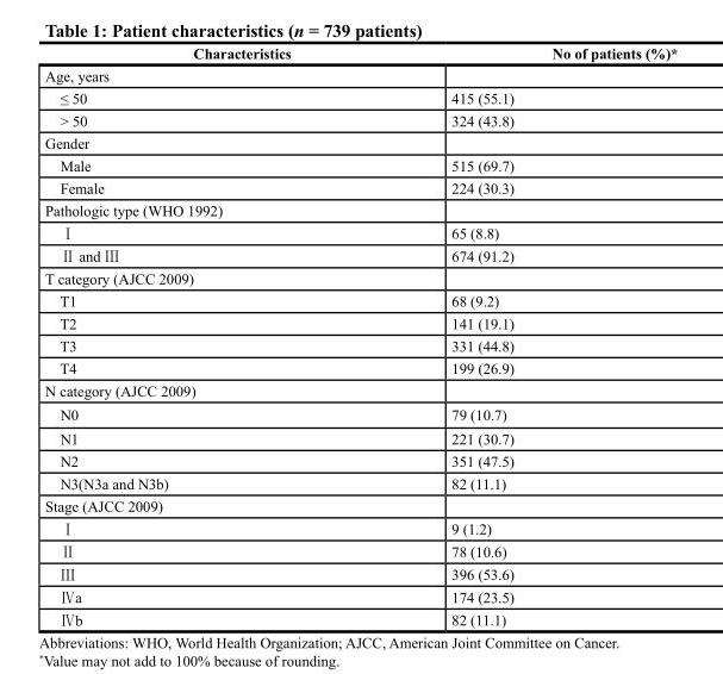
<table><thead><tr><td>Characteristics</td><td>No of patients (%)*</td></tr></thead><tbody><tr><td colspan="2">Age, years</td></tr><tr><td>≤ 50</td><td>415 (55.1)</td></tr><tr><td>&gt; 50</td><td>324 (43.8)</td></tr><tr><td colspan="2">Gender</td></tr><tr><td>Male</td><td>515 (69.7)</td></tr><tr><td>Female</td><td>224 (30.3)</td></tr><tr><td colspan="2">Pathologic type (WHO 1992)</td></tr><tr><td>Ⅰ</td><td>65 (8.8)</td></tr><tr><td>Ⅱ and Ⅲ</td><td>674 (91.2)</td></tr><tr><td colspan="2">T category (AJCC 2009)</td></tr><tr><td>T1</td><td>68 (9.2)</td></tr><tr><td>T2</td><td>141 (19.1)</td></tr><tr><td>T3</td><td>331 (44.8)</td></tr><tr><td>T4</td><td>199 (26.9)</td></tr><tr><td colspan="2">N category (AJCC 2009)</td></tr><tr><td>N0</td><td>79 (10.7)</td></tr><tr><td>N1</td><td>221 (30.7)</td></tr><tr><td>N2</td><td>351 (47.5)</td></tr><tr><td>N3(N3a and N3b)</td><td>82 (11.1)</td></tr><tr><td colspan="2">Stage (AJCC 2009)</td></tr><tr><td>Ⅰ</td><td>9 (1.2)</td></tr><tr><td>Ⅱ</td><td>78 (10.6)</td></tr><tr><td>Ⅲ</td><td>396 (53.6)</td></tr><tr><td>Ⅳa</td><td>174 (23.5)</td></tr><tr><td>Ⅳb</td><td>82 (11.1)</td></tr></tbody></table>